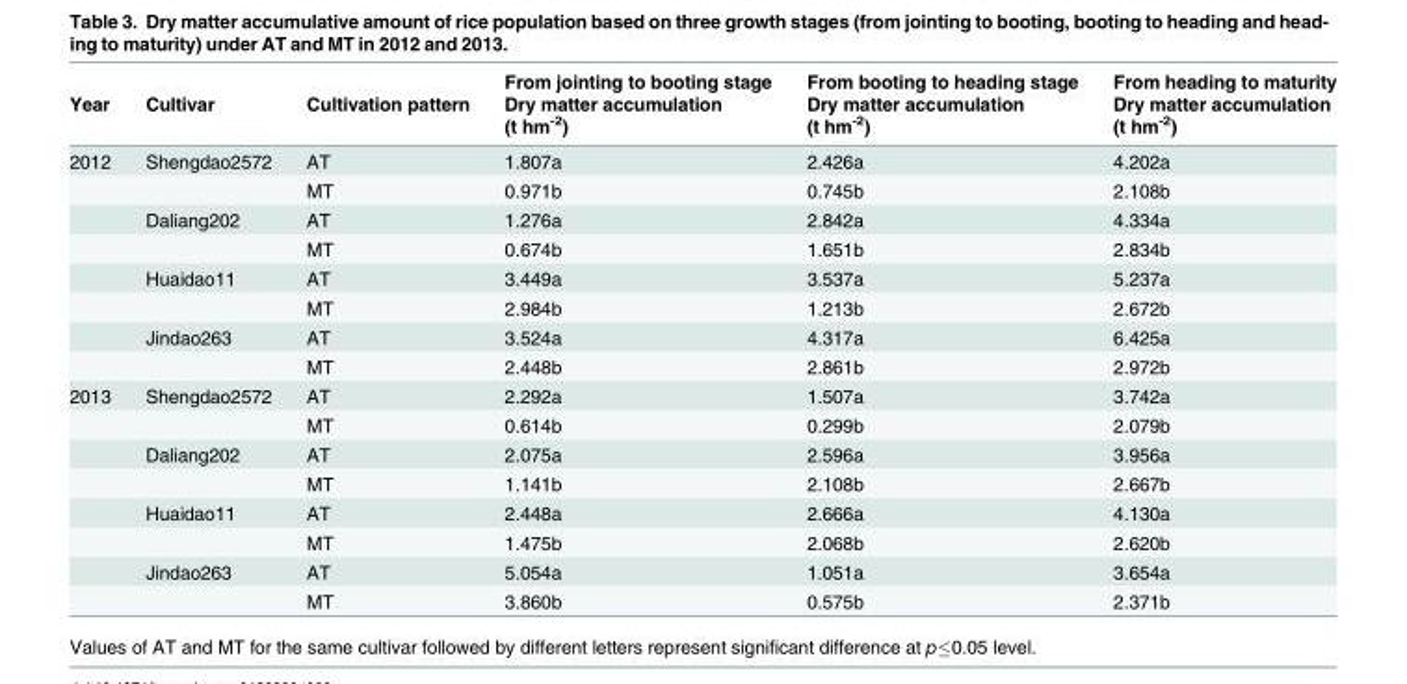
<table><thead><tr><td rowspan="2">Year</td><td rowspan="2">Cultivar</td><td rowspan="2">Cultivation pattern</td><td rowspan="2">From jointing to booting stage Dry matter accumulation (t hm<sup>-2</sup>)</td><td rowspan="2">From booting to heading stage Dry matter accumulation (t hm<sup>-2</sup>)</td><td rowspan="2">From heading to maturity Dry matter accumulation (t hm<sup>-2</sup>)</td></tr><tr></tr></thead><tbody><tr><td rowspan="8">2012</td><td>Shengdao2572</td><td>AT</td><td>1.807a</td><td>2.426a</td><td>4.202a</td></tr><tr><td></td><td>MT</td><td>0.971b</td><td>0.745b</td><td>2.108b</td></tr><tr><td>Daliang202</td><td>AT</td><td>1.276a</td><td>2.842a</td><td>4.334a</td></tr><tr><td></td><td>MT</td><td>0.674b</td><td>1.651b</td><td>2.834b</td></tr><tr><td>Huaidao11</td><td>AT</td><td>3.449a</td><td>3.537a</td><td>5.237a</td></tr><tr><td></td><td>MT</td><td>2.984b</td><td>1.213b</td><td>2.672b</td></tr><tr><td>Jindao263</td><td>AT</td><td>3.524a</td><td>4.317a</td><td>6.425a</td></tr><tr><td></td><td>MT</td><td>2.448b</td><td>2.861b</td><td>2.972b</td></tr><tr><td rowspan="8">2013</td><td>Shengdao2572</td><td>AT</td><td>2.292a</td><td>1.507a</td><td>3.742a</td></tr><tr><td></td><td>MT</td><td>0.614b</td><td>0.299b</td><td>2.079b</td></tr><tr><td>Daliang202</td><td>AT</td><td>2.075a</td><td>2.596a</td><td>3.956a</td></tr><tr><td></td><td>MT</td><td>1.141b</td><td>2.108b</td><td>2.667b</td></tr><tr><td>Huaidao11</td><td>AT</td><td>2.448a</td><td>2.666a</td><td>4.130a</td></tr><tr><td></td><td>MT</td><td>1.475b</td><td>2.068b</td><td>2.620b</td></tr><tr><td>Jindao263</td><td>AT</td><td>5.054a</td><td>1.051a</td><td>3.654a</td></tr><tr><td></td><td>MT</td><td>3.860b</td><td>0.575b</td><td>2.371b</td></tr></tbody></table>